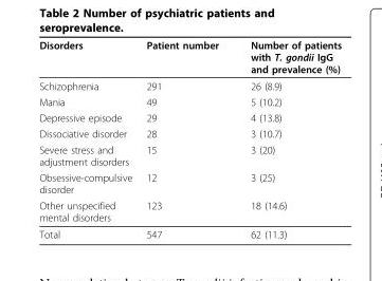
<table><thead><tr><td>Disorders</td><td>Patient number</td><td>Number of patients with T. gondii IgG and prevalence (%)</td></tr></thead><tbody><tr><td>Schizophrenia</td><td>291</td><td>26 (8.9)</td></tr><tr><td>Mania</td><td>49</td><td>5 (10.2)</td></tr><tr><td>Depressive episode</td><td>29</td><td>4 (13.8)</td></tr><tr><td>Dissociative disorder</td><td>28</td><td>3 (10.7)</td></tr><tr><td>Severe stress and adjustment disorders</td><td>15</td><td>3 (20)</td></tr><tr><td>Obsessive-compulsive disorder</td><td>12</td><td>3 (25)</td></tr><tr><td>Other unspecified mental disorders</td><td>123</td><td>18 (14.6)</td></tr><tr><td>Total</td><td>547</td><td>62 (11.3)</td></tr></tbody></table>